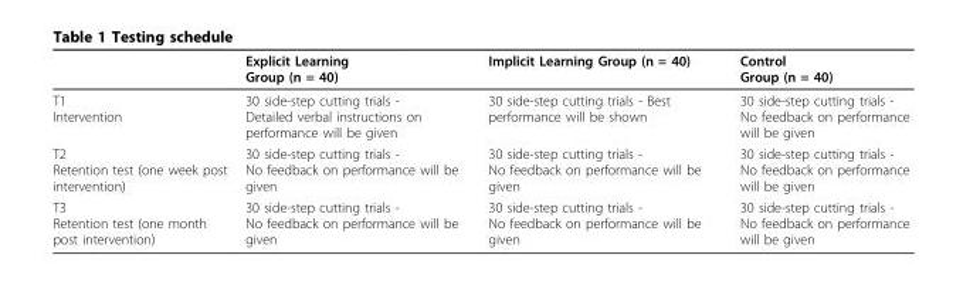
<table><thead><tr><td></td><td>Explicit Learning Group (n = 40)</td><td>Implicit Learning Group (n = 40)</td><td>Control Group (n = 40)</td></tr></thead><tbody><tr><td>T1 Intervention</td><td>30 side-step cutting trials - Detailed verbal instructions on performance will be given</td><td>30 side-step cutting trials - Best performance will be shown</td><td>30 side-step cutting trials - No feedback on performance will be given</td></tr><tr><td>T2 Retention test (one week post intervention)</td><td>30 side-step cutting trials - No feedback on performance will be given</td><td>30 side-step cutting trials - No feedback on performance will be given</td><td>30 side-step cutting trials - No feedback on performance will be given</td></tr><tr><td>T3 Retention test (one month post intervention)</td><td>30 side-step cutting trials - No feedback on performance will be given</td><td>30 side-step cutting trials - No feedback on performance will be given</td><td>30 side-step cutting trials - No feedback on performance will be given</td></tr></tbody></table>